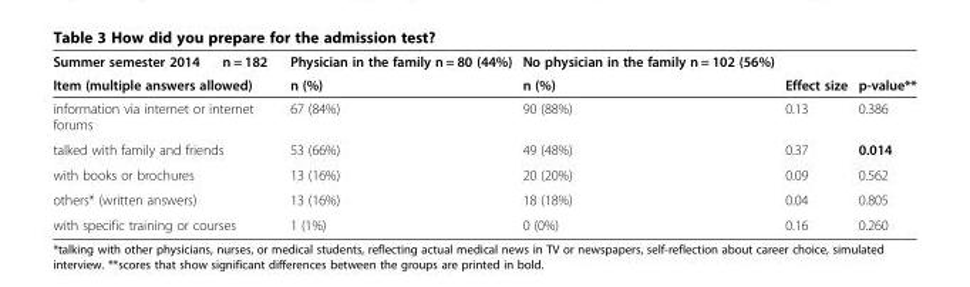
<table><thead><tr><td>Summer semester 2014</td><td>n = 182</td><td rowspan="2">Physician in the family n = 80 (44%) n (%)</td><td rowspan="2">No physician in the family n = 102 (56%) n (%)</td><td rowspan="2">Effect size</td><td rowspan="2">p-value**</td></tr><tr><td colspan="2">Item (multiple answers allowed)</td></tr></thead><tbody><tr><td colspan="2">information via internet or internet forums</td><td>67 (84%)</td><td>90 (88%)</td><td>0.13</td><td>0.386</td></tr><tr><td colspan="2">talked with family and friends</td><td>53 (66%)</td><td>49 (48%)</td><td>0.37</td><td>0.014</td></tr><tr><td colspan="2">with books or brochures</td><td>13 (16%)</td><td>20 (20%)</td><td>0.09</td><td>0.562</td></tr><tr><td colspan="2">others* (written answers)</td><td>13 (16%)</td><td>18 (18%)</td><td>0.04</td><td>0.805</td></tr><tr><td colspan="2">with specific training or courses</td><td>1 (1%)</td><td>0 (0%)</td><td>0.16</td><td>0.260</td></tr></tbody></table>